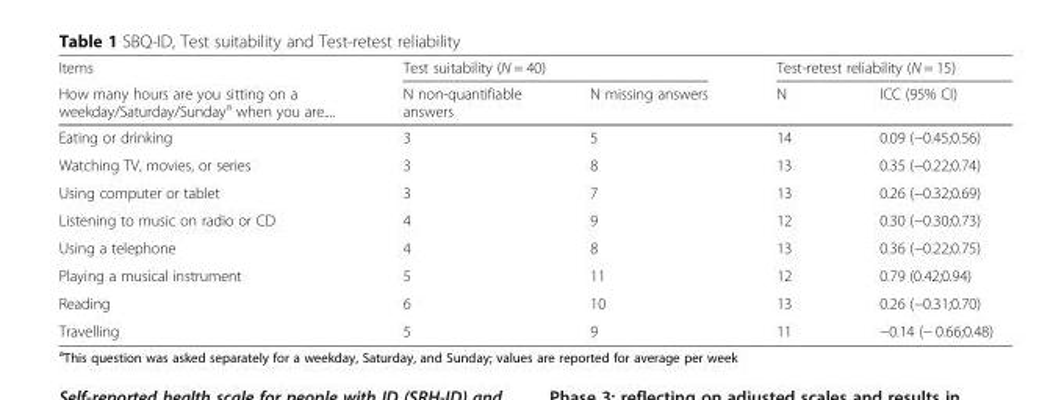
<table><thead><tr><td rowspan="2">Items How many hours are you sitting on a weekday/Saturday/Sunday<sup>a</sup> when you are....</td><td colspan="2">Test suitability (N = 40)</td><td colspan="2">Test-retest reliability (N = 15)</td></tr><tr><td>N non-quantifiable answers</td><td>N missing answers</td><td>N</td><td>ICC (95% CI)</td></tr></thead><tbody><tr><td>Eating or drinking</td><td>3</td><td>5</td><td>14</td><td>0.09 (−0.45;0.56)</td></tr><tr><td>Watching TV, movies, or series</td><td>3</td><td>8</td><td>13</td><td>0.35 (−0.22;0.74)</td></tr><tr><td>Using computer or tablet</td><td>3</td><td>7</td><td>13</td><td>0.26 (−0.32;0.69)</td></tr><tr><td>Listening to music on radio or CD</td><td>4</td><td>9</td><td>12</td><td>0.30 (−0.30;0.73)</td></tr><tr><td>Using a telephone</td><td>4</td><td>8</td><td>13</td><td>0.36 (−0.22;0.75)</td></tr><tr><td>Playing a musical instrument</td><td>5</td><td>11</td><td>12</td><td>0.79 (0.42;0.94)</td></tr><tr><td>Reading</td><td>6</td><td>10</td><td>13</td><td>0.26 (−0.31;0.70)</td></tr><tr><td>Travelling</td><td>5</td><td>9</td><td>11</td><td>−0.14 (− 0.66;0.48)</td></tr></tbody></table>